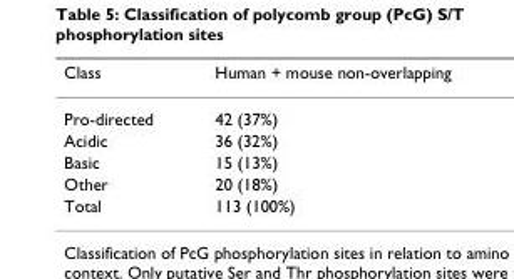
<table><thead><tr><td>Class</td><td>Human + mouse non-overlapping</td></tr></thead><tbody><tr><td>Pro-directed</td><td>42 (37%)</td></tr><tr><td>Acidic</td><td>36 (32%)</td></tr><tr><td>Basic</td><td>15 (13%)</td></tr><tr><td>Other</td><td>20 (18%)</td></tr><tr><td>Total</td><td>113 (100%)</td></tr></tbody></table>